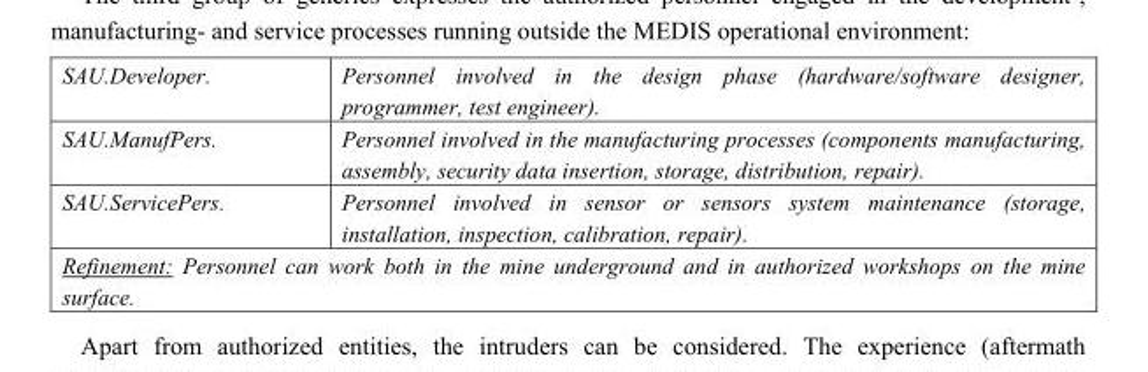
<table><tbody><tr><td>SAU.Developer.</td><td>Personnel involved in the design phase (hardware/software designer, programmer, test engineer).</td></tr><tr><td>SAU.ManufPers.</td><td>Personnel involved in the manufacturing processes (components manufacturing, assembly, security data insertion, storage, distribution, repair).</td></tr><tr><td>SAU.ServicePers.</td><td>Personnel involved in sensor or sensors system maintenance (storage, installation, inspection, calibration, repair).</td></tr><tr><td colspan="2">Refinement: Personnel can work both in the mine underground and in authorized workshops on the mine surface.</td></tr></tbody></table>